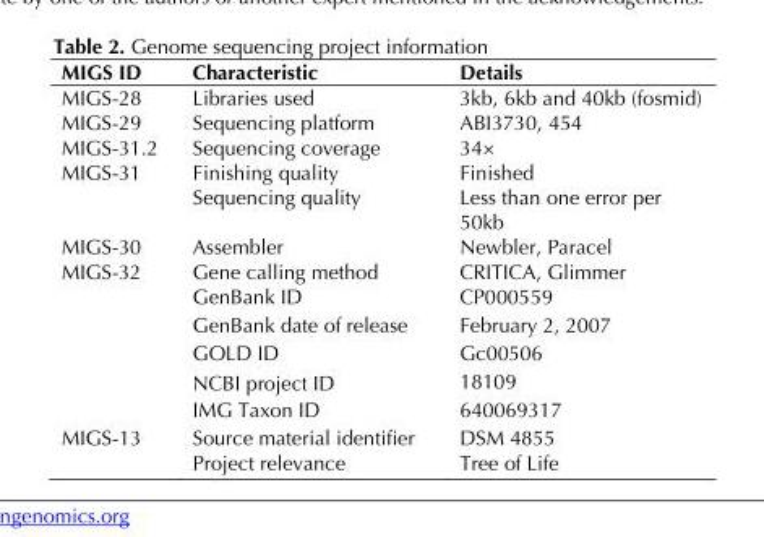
<table><thead><tr><td>MIGS ID</td><td>Characteristic</td><td>Details</td></tr></thead><tbody><tr><td>MIGS-28</td><td>Libraries used</td><td>3kb, 6kb and 40kb (fosmid)</td></tr><tr><td>MIGS-29</td><td>Sequencing platform</td><td>ABI3730, 454</td></tr><tr><td>MIGS-31.2</td><td>Sequencing coverage</td><td>34×</td></tr><tr><td rowspan="2">MIGS-31</td><td>Finishing quality</td><td>Finished</td></tr><tr><td>Sequencing quality</td><td>Less than one error per 50kb</td></tr><tr><td>MIGS-30</td><td>Assembler</td><td>Newbler, Paracel</td></tr><tr><td rowspan="6">MIGS-32</td><td>Gene calling method</td><td>CRITICA, Glimmer</td></tr><tr><td>GenBank ID</td><td>CP000559</td></tr><tr><td>GenBank date of release</td><td>February 2, 2007</td></tr><tr><td>GOLD ID</td><td>Gc00506</td></tr><tr><td>NCBI project ID</td><td>18109</td></tr><tr><td>IMG Taxon ID</td><td>640069317</td></tr><tr><td rowspan="2">MIGS-13</td><td>Source material identifier</td><td>DSM 4855</td></tr><tr><td>Project relevance</td><td>Tree of Life</td></tr></tbody></table>